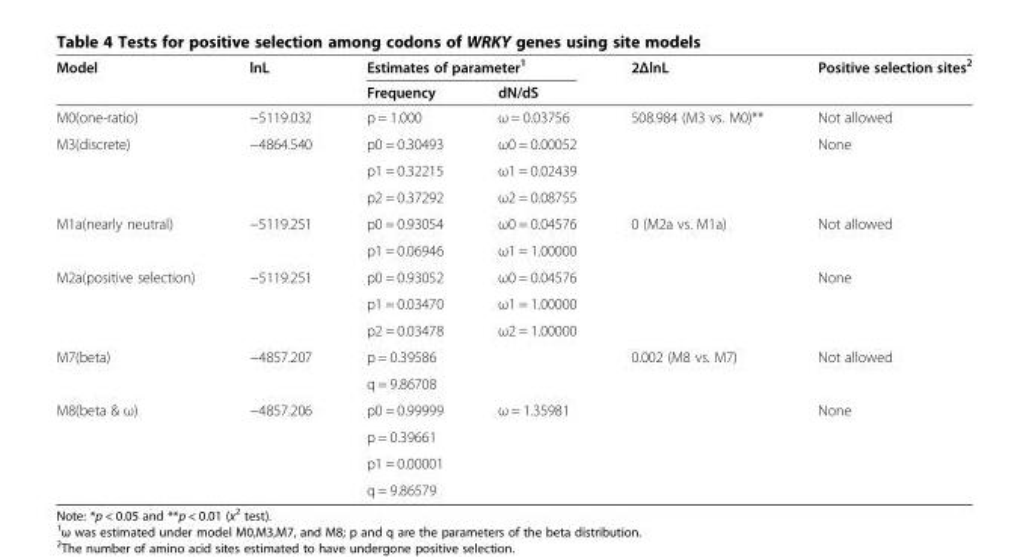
<table><thead><tr><td rowspan="2">Model</td><td rowspan="2">lnL</td><td colspan="2">Estimates of parameter<sup>1</sup></td><td rowspan="2">2ΔlnL</td><td rowspan="2">Positive selection sites<sup>2</sup></td></tr><tr><td>Frequency</td><td>dN/dS</td></tr></thead><tbody><tr><td>M0(one-ratio)</td><td>−5119.032</td><td>p = 1.000</td><td>ω = 0.03756</td><td rowspan="4">508.984 (M3 vs. M0)**</td><td>Not allowed</td></tr><tr><td rowspan="3">M3(discrete)</td><td rowspan="3">−4864.540</td><td>p0 = 0.30493</td><td>ω0 = 0.00052</td><td rowspan="3">None</td></tr><tr><td>p1 = 0.32215</td><td>ω1 = 0.02439</td></tr><tr><td>p2 = 0.37292</td><td>ω2 = 0.08755</td></tr><tr><td rowspan="2">M1a(nearly neutral)</td><td rowspan="2">−5119.251</td><td>p0 = 0.93054</td><td>ω0 = 0.04576</td><td rowspan="5">0 (M2a vs. M1a)</td><td rowspan="2">Not allowed</td></tr><tr><td>p1 = 0.06946</td><td>ω1 = 1.00000</td></tr><tr><td rowspan="3">M2a(positive selection)</td><td rowspan="3">−5119.251</td><td>p0 = 0.93052</td><td>ω0 = 0.04576</td><td rowspan="3">None</td></tr><tr><td>p1 = 0.03470</td><td>ω1 = 1.00000</td></tr><tr><td>p2 = 0.03478</td><td>ω2 = 1.00000</td></tr><tr><td rowspan="2">M7(beta)</td><td rowspan="2">−4857.207</td><td>p = 0.39586</td><td rowspan="2"></td><td rowspan="6">0.002 (M8 vs. M7)</td><td rowspan="2">Not allowed</td></tr><tr><td>q = 9.86708</td></tr><tr><td rowspan="4">M8(beta &amp; ω)</td><td rowspan="4">−4857.206</td><td>p0 = 0.99999</td><td rowspan="4">ω = 1.35981</td><td rowspan="4">None</td></tr><tr><td>p = 0.39661</td></tr><tr><td>p1 = 0.00001</td></tr><tr><td>q = 9.86579</td></tr></tbody></table>